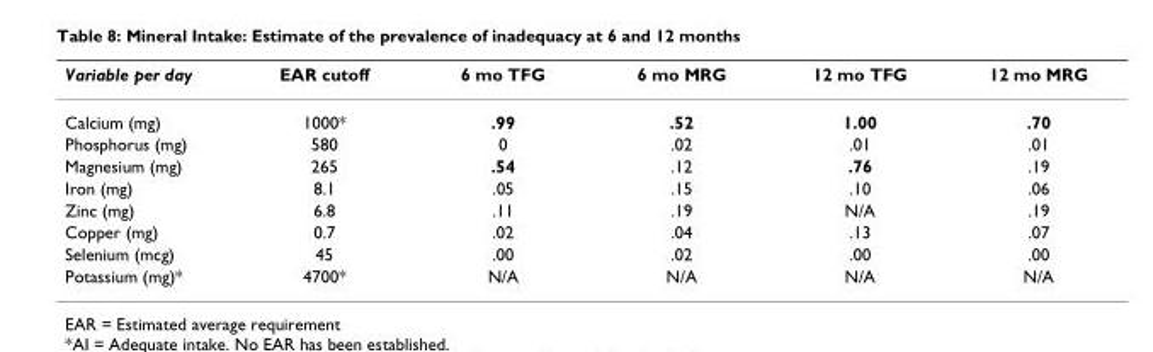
<table><thead><tr><td>Variable per day</td><td>EAR cutoff</td><td>6 mo TFG</td><td>6 mo MRG</td><td>12 mo TFG</td><td>12 mo MRG</td></tr></thead><tbody><tr><td>Calcium (mg)</td><td>1000*</td><td>.99</td><td>.52</td><td>1.00</td><td>.70</td></tr><tr><td>Phosphorus (mg)</td><td>580</td><td>0</td><td>.02</td><td>.01</td><td>.01</td></tr><tr><td>Magnesium (mg)</td><td>265</td><td>.54</td><td>.12</td><td>.76</td><td>.19</td></tr><tr><td>Iron (mg)</td><td>8.1</td><td>.05</td><td>.15</td><td>.10</td><td>.06</td></tr><tr><td>Zinc (mg)</td><td>6.8</td><td>.11</td><td>.19</td><td>N/A</td><td>.19</td></tr><tr><td>Copper (mg)</td><td>0.7</td><td>.02</td><td>.04</td><td>.13</td><td>.07</td></tr><tr><td>Selenium (mcg)</td><td>45</td><td>.00</td><td>.02</td><td>.00</td><td>.00</td></tr><tr><td>Potassium (mg)*</td><td>4700*</td><td>N/A</td><td>N/A</td><td>N/A</td><td>N/A</td></tr></tbody></table>